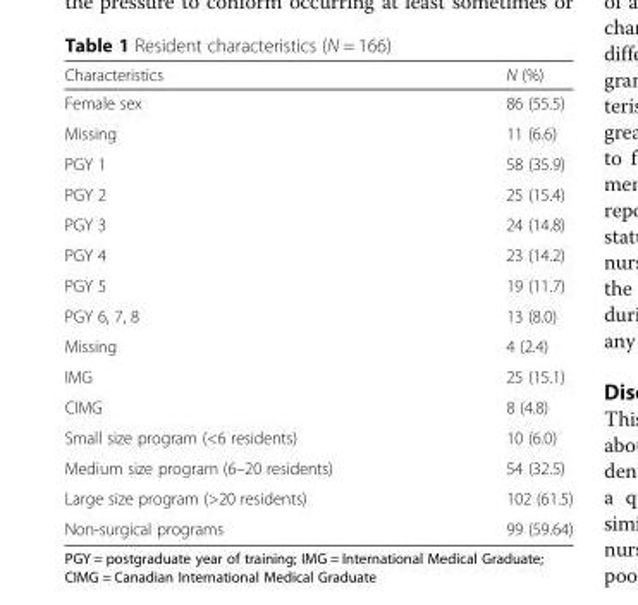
<table><thead><tr><td>Characteristics</td><td>N (%)</td></tr></thead><tbody><tr><td>Female sex</td><td>86 (55.5)</td></tr><tr><td>Missing</td><td>11 (6.6)</td></tr><tr><td>PGY 1</td><td>58 (35.9)</td></tr><tr><td>PGY 2</td><td>25 (15.4)</td></tr><tr><td>PGY 3</td><td>24 (14.8)</td></tr><tr><td>PGY 4</td><td>23 (14.2)</td></tr><tr><td>PGY 5</td><td>19 (11.7)</td></tr><tr><td>PGY 6, 7, 8</td><td>13 (8.0)</td></tr><tr><td>Missing</td><td>4 (2.4)</td></tr><tr><td>IMG</td><td>25 (15.1)</td></tr><tr><td>CIMG</td><td>8 (4.8)</td></tr><tr><td>Small size program (&lt;6 residents)</td><td>10 (6.0)</td></tr><tr><td>Medium size program (6–20 residents)</td><td>54 (32.5)</td></tr><tr><td>Large size program (&gt;20 residents)</td><td>102 (61.5)</td></tr><tr><td>Non-surgical programs</td><td>99 (59.64)</td></tr></tbody></table>